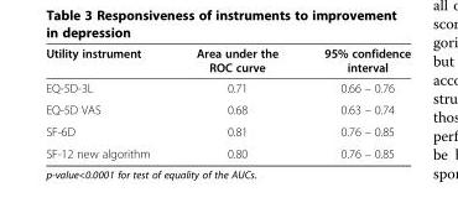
<table><thead><tr><td>Utility instrument</td><td>Area under the ROC curve</td><td>95% confidence interval</td></tr></thead><tbody><tr><td>EQ-5D-3L</td><td>0.71</td><td>0.66 – 0.76</td></tr><tr><td>EQ-5D VAS</td><td>0.68</td><td>0.63 – 0.74</td></tr><tr><td>SF-6D</td><td>0.81</td><td>0.76 – 0.85</td></tr><tr><td>SF-12 new algorithm</td><td>0.80</td><td>0.76 – 0.85</td></tr></tbody></table>